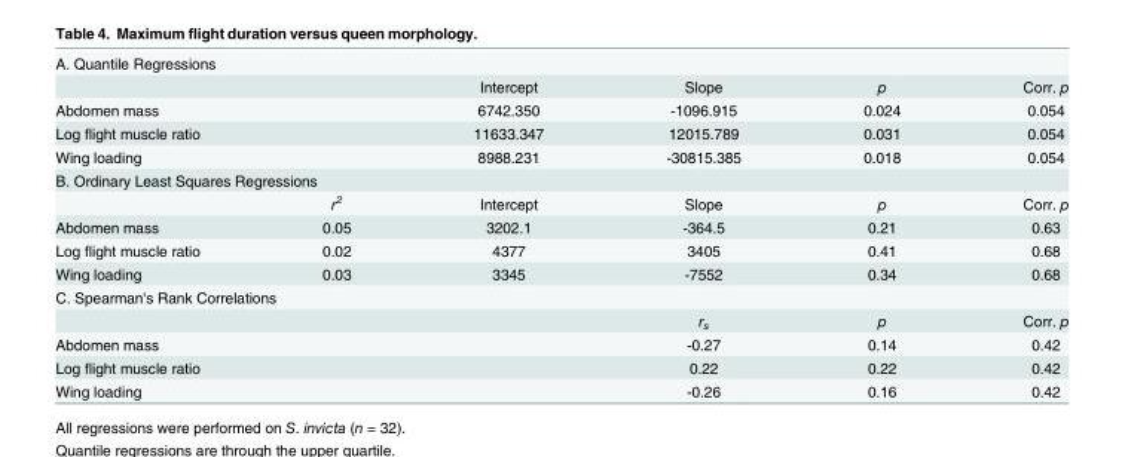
<table><tbody><tr><td colspan="6">A. Quantile Regressions</td></tr><tr><td></td><td></td><td>Intercept</td><td>Slope</td><td>p</td><td>Corr. p</td></tr><tr><td>Abdomen mass</td><td></td><td>6742.350</td><td>-1096.915</td><td>0.024</td><td>0.054</td></tr><tr><td>Log flight muscle ratio</td><td></td><td>11633.347</td><td>12015.789</td><td>0.031</td><td>0.054</td></tr><tr><td>Wing loading</td><td></td><td>8988.231</td><td>-30815.385</td><td>0.018</td><td>0.054</td></tr><tr><td colspan="6">B. Ordinary Least Squares Regressions</td></tr><tr><td></td><td>r<sup>2</sup></td><td>Intercept</td><td>Slope</td><td>p</td><td>Corr. p</td></tr><tr><td>Abdomen mass</td><td>0.05</td><td>3202.1</td><td>-364.5</td><td>0.21</td><td>0.63</td></tr><tr><td>Log flight muscle ratio</td><td>0.02</td><td>4377</td><td>3405</td><td>0.41</td><td>0.68</td></tr><tr><td>Wing loading</td><td>0.03</td><td>3345</td><td>-7552</td><td>0.34</td><td>0.68</td></tr><tr><td colspan="6">C. Spearman&#x27;s Rank Correlations</td></tr><tr><td></td><td></td><td></td><td>r<sub>s</sub></td><td>p</td><td>Corr. p</td></tr><tr><td>Abdomen mass</td><td></td><td></td><td>-0.27</td><td>0.14</td><td>0.42</td></tr><tr><td>Log flight muscle ratio</td><td></td><td></td><td>0.22</td><td>0.22</td><td>0.42</td></tr><tr><td>Wing loading</td><td></td><td></td><td>-0.26</td><td>0.16</td><td>0.42</td></tr></tbody></table>